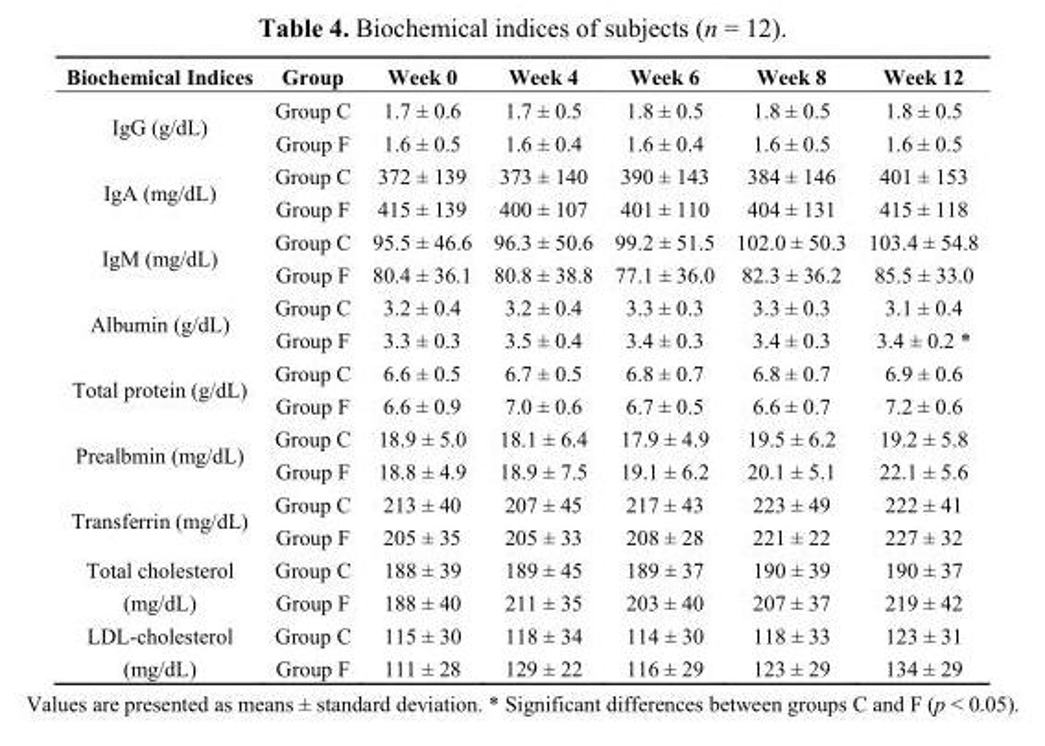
<table><thead><tr><td>Biochemical Indices</td><td>Group</td><td>Week 0</td><td>Week 4</td><td>Week 6</td><td>Week 8</td><td>Week 12</td></tr></thead><tbody><tr><td rowspan="2">IgG (g/dL)</td><td>Group C</td><td>1.7 ± 0.6</td><td>1.7 ± 0.5</td><td>1.8 ± 0.5</td><td>1.8 ± 0.5</td><td>1.8 ± 0.5</td></tr><tr><td>Group F</td><td>1.6 ± 0.5</td><td>1.6 ± 0.4</td><td>1.6 ± 0.4</td><td>1.6 ± 0.5</td><td>1.6 ± 0.5</td></tr><tr><td rowspan="2">IgA (mg/dL)</td><td>Group C</td><td>372 ± 139</td><td>373 ± 140</td><td>390 ± 143</td><td>384 ± 146</td><td>401 ± 153</td></tr><tr><td>Group F</td><td>415 ± 139</td><td>400 ± 107</td><td>401 ± 110</td><td>404 ± 131</td><td>415 ± 118</td></tr><tr><td rowspan="2">IgM (mg/dL)</td><td>Group C</td><td>95.5 ± 46.6</td><td>96.3 ± 50.6</td><td>99.2 ± 51.5</td><td>102.0 ± 50.3</td><td>103.4 ± 54.8</td></tr><tr><td>Group F</td><td>80.4 ± 36.1</td><td>80.8 ± 38.8</td><td>77.1 ± 36.0</td><td>82.3 ± 36.2</td><td>85.5 ± 33.0</td></tr><tr><td rowspan="2">Albumin (g/dL)</td><td>Group C</td><td>3.2 ± 0.4</td><td>3.2 ± 0.4</td><td>3.3 ± 0.3</td><td>3.3 ± 0.3</td><td>3.1 ± 0.4</td></tr><tr><td>Group F</td><td>3.3 ± 0.3</td><td>3.5 ± 0.4</td><td>3.4 ± 0.3</td><td>3.4 ± 0.3</td><td>3.4 ± 0.2 *</td></tr><tr><td rowspan="2">Total protein (g/dL)</td><td>Group C</td><td>6.6 ± 0.5</td><td>6.7 ± 0.5</td><td>6.8 ± 0.7</td><td>6.8 ± 0.7</td><td>6.9 ± 0.6</td></tr><tr><td>Group F</td><td>6.6 ± 0.9</td><td>7.0 ± 0.6</td><td>6.7 ± 0.5</td><td>6.6 ± 0.7</td><td>7.2 ± 0.6</td></tr><tr><td rowspan="2">Prealbmin (mg/dL)</td><td>Group C</td><td>18.9 ± 5.0</td><td>18.1 ± 6.4</td><td>17.9 ± 4.9</td><td>19.5 ± 6.2</td><td>19.2 ± 5.8</td></tr><tr><td>Group F</td><td>18.8 ± 4.9</td><td>18.9 ± 7.5</td><td>19.1 ± 6.2</td><td>20.1 ± 5.1</td><td>22.1 ± 5.6</td></tr><tr><td rowspan="2">Transferrin (mg/dL)</td><td>Group C</td><td>213 ± 40</td><td>207 ± 45</td><td>217 ± 43</td><td>223 ± 49</td><td>222 ± 41</td></tr><tr><td>Group F</td><td>205 ± 35</td><td>205 ± 33</td><td>208 ± 28</td><td>221 ± 22</td><td>227 ± 32</td></tr><tr><td>Total cholesterol</td><td>Group C</td><td>188 ± 39</td><td>189 ± 45</td><td>189 ± 37</td><td>190 ± 39</td><td>190 ± 37</td></tr><tr><td>(mg/dL)</td><td>Group F</td><td>188 ± 40</td><td>211 ± 35</td><td>203 ± 40</td><td>207 ± 37</td><td>219 ± 42</td></tr><tr><td>LDL-cholesterol</td><td>Group C</td><td>115 ± 30</td><td>118 ± 34</td><td>114 ± 30</td><td>118 ± 33</td><td>123 ± 31</td></tr><tr><td>(mg/dL)</td><td>Group F</td><td>111 ± 28</td><td>129 ± 22</td><td>116 ± 29</td><td>123 ± 29</td><td>134 ± 29</td></tr></tbody></table>